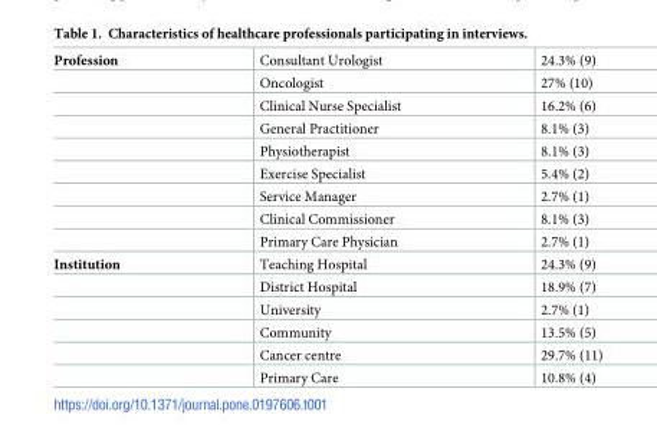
<table><tbody><tr><td rowspan="9">Profession</td><td>Consultant Urologist</td><td>24.3% (9)</td></tr><tr><td>Oncologist</td><td>27% (10)</td></tr><tr><td>Clinical Nurse Specialist</td><td>16.2% (6)</td></tr><tr><td>General Practitioner</td><td>8.1% (3)</td></tr><tr><td>Physiotherapist</td><td>8.1% (3)</td></tr><tr><td>Exercise Specialist</td><td>5.4% (2)</td></tr><tr><td>Service Manager</td><td>2.7% (1)</td></tr><tr><td>Clinical Commissioner</td><td>8.1% (3)</td></tr><tr><td>Primary Care Physician</td><td>2.7% (1)</td></tr><tr><td rowspan="6">Institution</td><td>Teaching Hospital</td><td>24.3% (9)</td></tr><tr><td>District Hospital</td><td>18.9% (7)</td></tr><tr><td>University</td><td>2.7% (1)</td></tr><tr><td>Community</td><td>13.5% (5)</td></tr><tr><td>Cancer centre</td><td>29.7% (11)</td></tr><tr><td>Primary Care</td><td>10.8% (4)</td></tr></tbody></table>